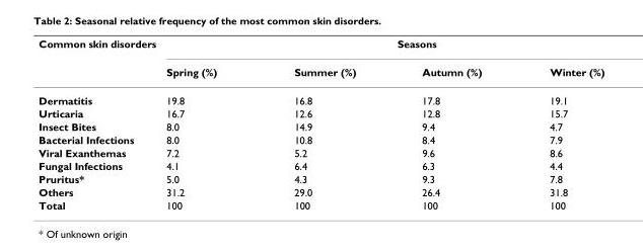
<table><thead><tr><td rowspan="2">Common skin disorders</td><td colspan="4">Seasons</td></tr><tr><td>Spring (%)</td><td>Summer (%)</td><td>Autumn (%)</td><td>Winter (%)</td></tr></thead><tbody><tr><td>Dermatitis</td><td>19.8</td><td>16.8</td><td>17.8</td><td>19.1</td></tr><tr><td>Urticaria</td><td>16.7</td><td>12.6</td><td>12.8</td><td>15.7</td></tr><tr><td>Insect Bites</td><td>8.0</td><td>14.9</td><td>9.4</td><td>4.7</td></tr><tr><td>Bacterial Infections</td><td>8.0</td><td>10.8</td><td>8.4</td><td>7.9</td></tr><tr><td>Viral Exanthemas</td><td>7.2</td><td>5.2</td><td>9.6</td><td>8.6</td></tr><tr><td>Fungal Infections</td><td>4.1</td><td>6.4</td><td>6.3</td><td>4.4</td></tr><tr><td>Pruritus*</td><td>5.0</td><td>4.3</td><td>9.3</td><td>7.8</td></tr><tr><td>Others</td><td>31.2</td><td>29.0</td><td>26.4</td><td>31.8</td></tr><tr><td>Total</td><td>100</td><td>100</td><td>100</td><td>100</td></tr></tbody></table>